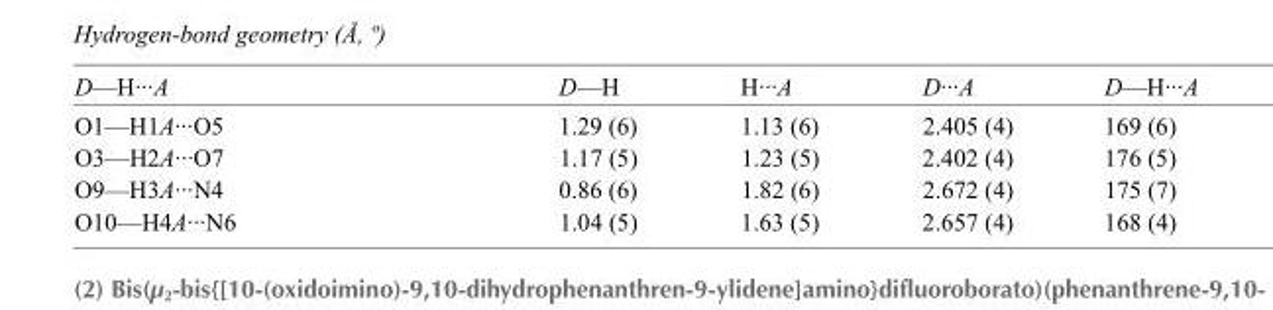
<table><tbody><tr><td>D—H···A</td><td>D—H</td><td>H···A</td><td>D···A</td><td>D—H···A</td></tr><tr><td>O1—H1A···O5</td><td>1.29 (6)</td><td>1.13 (6)</td><td>2.405 (4)</td><td>169 (6)</td></tr><tr><td>O3—H2A···O7</td><td>1.17 (5)</td><td>1.23 (5)</td><td>2.402 (4)</td><td>176 (5)</td></tr><tr><td>O9—H3A···N4</td><td>0.86 (6)</td><td>1.82 (6)</td><td>2.672 (4)</td><td>175 (7)</td></tr><tr><td>O10—H4A···N6</td><td>1.04 (5)</td><td>1.63 (5)</td><td>2.657 (4)</td><td>168 (4)</td></tr></tbody></table>